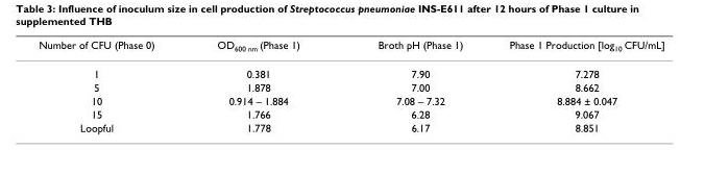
<table><thead><tr><td>Number of CFU (Phase 0)</td><td>OD600 nm (Phase 1)</td><td>Broth pH (Phase 1)</td><td>Phase 1 Production [log10 CFU/mL]</td></tr></thead><tbody><tr><td>1</td><td>0.381</td><td>7.90</td><td>7.278</td></tr><tr><td>5</td><td>1.878</td><td>7.00</td><td>8.662</td></tr><tr><td>10</td><td>0.914 – 1.884</td><td>7.08 – 7.32</td><td>8.884 ± 0.047</td></tr><tr><td>15</td><td>1.766</td><td>6.28</td><td>9.067</td></tr><tr><td>Loopful</td><td>1.778</td><td>6.17</td><td>8.851</td></tr></tbody></table>